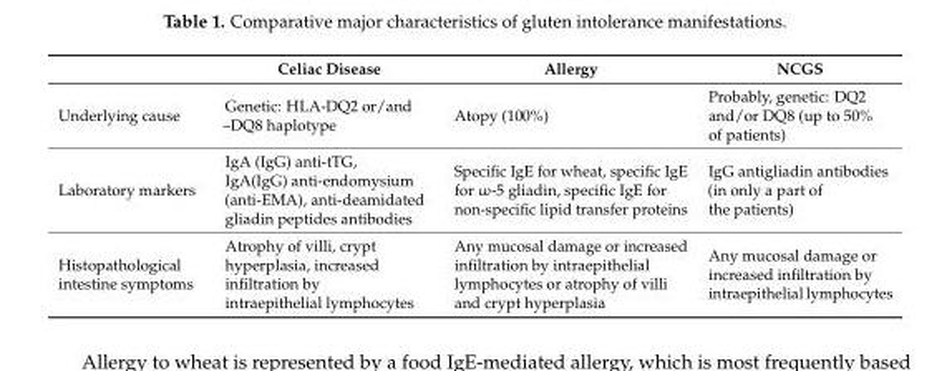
<table><thead><tr><td></td><td>Celiac Disease</td><td>Allergy</td><td>NCGS</td></tr></thead><tbody><tr><td>Underlying cause</td><td>Genetic: HLA-DQ2 or/and –DQ8 haplotype</td><td>Atopy (100%)</td><td>Probably, genetic: DQ2 and/or DQ8 (up to 50% of patients)</td></tr><tr><td>Laboratory markers</td><td>IgA (IgG) anti-tTG, IgA(IgG) anti-endomysium (anti-EMA), anti-deamidated gliadin peptides antibodies</td><td>Specific IgE for wheat, specific IgE for ω-5 gliadin, specific IgE for non-specific lipid transfer proteins</td><td>IgG antigliadin antibodies (in only a part of the patients)</td></tr><tr><td>Histopathological intestine symptoms</td><td>Atrophy of villi, crypt hyperplasia, increased infiltration by intraepithelial lymphocytes</td><td>Any mucosal damage or increased infiltration by intraepithelial lymphocytes or atrophy of villi and crypt hyperplasia</td><td>Any mucosal damage or increased infiltration by intraepithelial lymphocytes</td></tr></tbody></table>